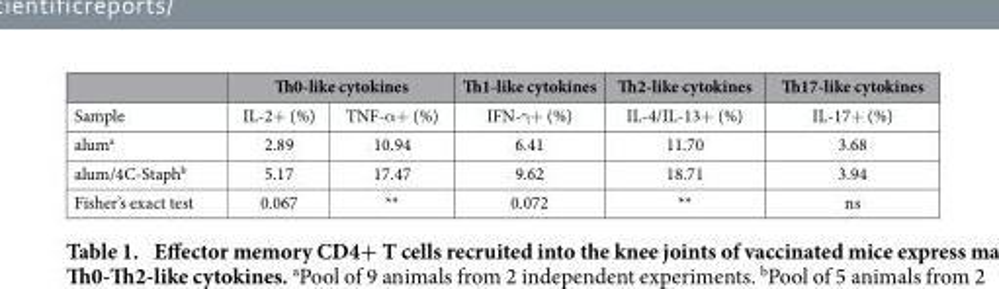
<table><thead><tr><td rowspan="2">Sample</td><td colspan="2">Th0-like cytokines</td><td rowspan="2">Th1-like cytokines IFN-γ + (%)</td><td rowspan="2">Th2-like cytokines IL-4/IL-13+ (%)</td><td rowspan="2">Th17-like cytokines IL-17+ (%)</td></tr><tr><td>IL-2+ (%)</td><td>TNF-α + (%)</td></tr></thead><tbody><tr><td>alum<sup>a</sup></td><td>2.89</td><td>10.94</td><td>6.41</td><td>11.70</td><td>3.68</td></tr><tr><td>alum/4C-Staph<sup>b</sup></td><td>5.17</td><td>17.47</td><td>9.62</td><td>18.71</td><td>3.94</td></tr><tr><td>Fisher’s exact test</td><td>0.067</td><td>**</td><td>0.072</td><td>**</td><td>ns</td></tr></tbody></table>